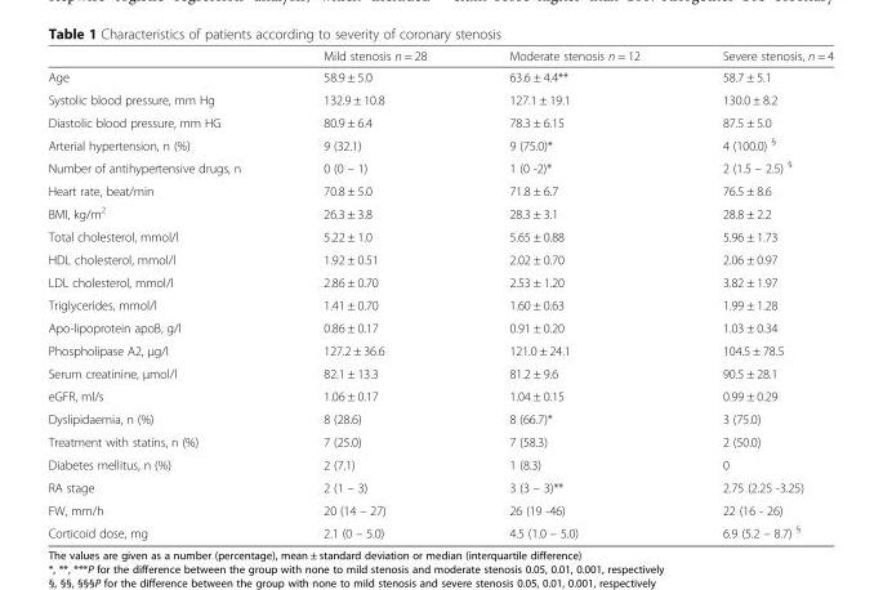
<table><thead><tr><td></td><td>Mild stenosis n = 28</td><td>Moderate stenosis n = 12</td><td>Severe stenosis, n = 4</td></tr></thead><tbody><tr><td>Age</td><td>58.9 ± 5.0</td><td>63.6 ± 4.4**</td><td>58.7 ± 5.1</td></tr><tr><td>Systolic blood pressure, mm Hg</td><td>132.9 ± 10.8</td><td>127.1 ± 19.1</td><td>130.0 ± 8.2</td></tr><tr><td>Diastolic blood pressure, mm HG</td><td>80.9 ± 6.4</td><td>78.3 ± 6.15</td><td>87.5 ± 5.0</td></tr><tr><td>Arterial hypertension, n (%)</td><td>9 (32.1)</td><td>9 (75.0)*</td><td>4 (100.0) <sup>§</sup></td></tr><tr><td>Number of antihypertensive drugs, n</td><td>0 (0 – 1)</td><td>1 (0 -2)*</td><td>2 (1.5 – 2.5) <sup>§</sup></td></tr><tr><td>Heart rate, beat/min</td><td>70.8 ± 5.0</td><td>71.8 ± 6.7</td><td>76.5 ± 8.6</td></tr><tr><td>BMI, kg/m<sup>2</sup></td><td>26.3 ± 3.8</td><td>28.3 ± 3.1</td><td>28.8 ± 2.2</td></tr><tr><td>Total cholesterol, mmol/l</td><td>5.22 ± 1.0</td><td>5.65 ± 0.88</td><td>5.96 ± 1.73</td></tr><tr><td>HDL cholesterol, mmol/l</td><td>1.92 ± 0.51</td><td>2.02 ± 0.70</td><td>2.06 ± 0.97</td></tr><tr><td>LDL cholesterol, mmol/l</td><td>2.86 ± 0.70</td><td>2.53 ± 1.20</td><td>3.82 ± 1.97</td></tr><tr><td>Triglycerides, mmol/l</td><td>1.41 ± 0.70</td><td>1.60 ± 0.63</td><td>1.99 ± 1.28</td></tr><tr><td>Apo-lipoprotein apoB, g/l</td><td>0.86 ± 0.17</td><td>0.91 ± 0.20</td><td>1.03 ± 0.34</td></tr><tr><td>Phospholipase A2, μg/l</td><td>127.2 ± 36.6</td><td>121.0 ± 24.1</td><td>104.5 ± 78.5</td></tr><tr><td>Serum creatinine, μmol/l</td><td>82.1 ± 13.3</td><td>81.2 ± 9.6</td><td>90.5 ± 28.1</td></tr><tr><td>eGFR, ml/s</td><td>1.06 ± 0.17</td><td>1.04 ± 0.15</td><td>0.99 ± 0.29</td></tr><tr><td>Dyslipidaemia, n (%)</td><td>8 (28.6)</td><td>8 (66.7)*</td><td>3 (75.0)</td></tr><tr><td>Treatment with statins, n (%)</td><td>7 (25.0)</td><td>7 (58.3)</td><td>2 (50.0)</td></tr><tr><td>Diabetes mellitus, n (%)</td><td>2 (7.1)</td><td>1 (8.3)</td><td>0</td></tr><tr><td>RA stage</td><td>2 (1 – 3)</td><td>3 (3 – 3)**</td><td>2.75 (2.25 -3.25)</td></tr><tr><td>FW, mm/h</td><td>20 (14 – 27)</td><td>26 (19 -46)</td><td>22 (16 - 26)</td></tr><tr><td>Corticoid dose, mg</td><td>2.1 (0 – 5.0)</td><td>4.5 (1.0 – 5.0)</td><td>6.9 (5.2 – 8.7) <sup>§</sup></td></tr></tbody></table>